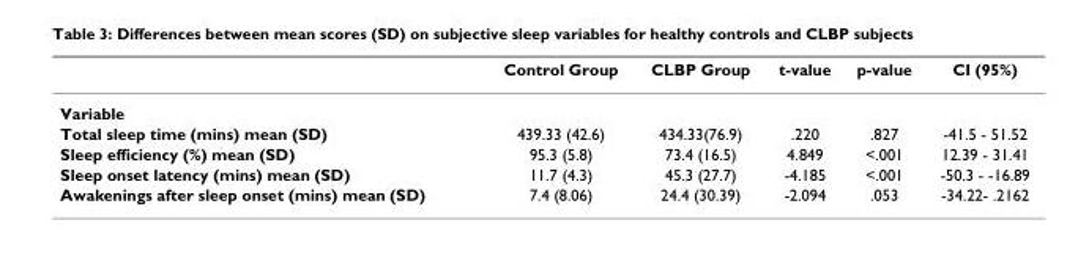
<table><thead><tr><td></td><td>Control Group</td><td>CLBP Group</td><td>t-value</td><td>p-value</td><td>CI (95%)</td></tr></thead><tbody><tr><td colspan="6">Variable</td></tr><tr><td>Total sleep time (mins) mean (SD)</td><td>439.33 (42.6)</td><td>434.33(76.9)</td><td>.220</td><td>.827</td><td>-41.5 - 51.52</td></tr><tr><td>Sleep efficiency (%) mean (SD)</td><td>95.3 (5.8)</td><td>73.4 (16.5)</td><td>4.849</td><td>&lt;.001</td><td>12.39 - 31.41</td></tr><tr><td>Sleep onset latency (mins) mean (SD)</td><td>11.7 (4.3)</td><td>45.3 (27.7)</td><td>-4.185</td><td>&lt;.001</td><td>-50.3 - -16.89</td></tr><tr><td>Awakenings after sleep onset (mins) mean (SD)</td><td>7.4 (8.06)</td><td>24.4 (30.39)</td><td>-2.094</td><td>.053</td><td>-34.22- .2162</td></tr></tbody></table>